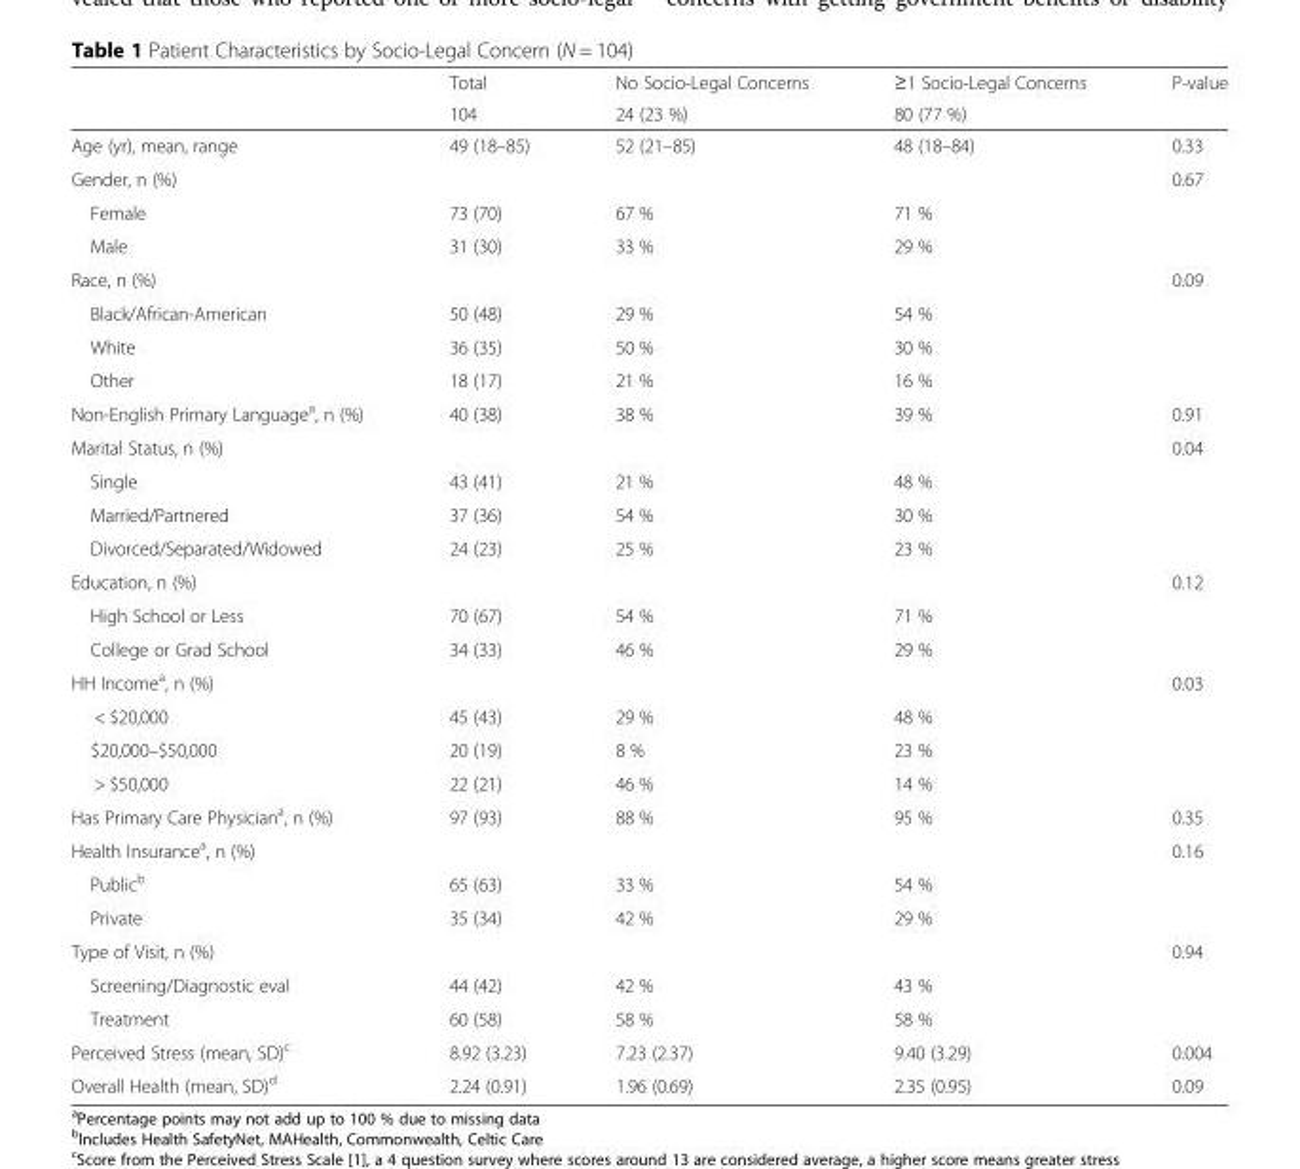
<table><thead><tr><td rowspan="2"></td><td rowspan="2">Total 104</td><td rowspan="2">No Socio-Legal Concerns 24 (23 %)</td><td rowspan="2">≥1 Socio-Legal Concerns 80 (77 %)</td><td rowspan="2">P-value</td></tr><tr></tr></thead><tbody><tr><td>Age (yr), mean, range</td><td>49 (18–85)</td><td>52 (21–85)</td><td>48 (18–84)</td><td>0.33</td></tr><tr><td>Gender, n (%)</td><td></td><td></td><td></td><td>0.67</td></tr><tr><td>Female</td><td>73 (70)</td><td>67 %</td><td>71 %</td><td></td></tr><tr><td>Male</td><td>31 (30)</td><td>33 %</td><td>29 %</td><td></td></tr><tr><td>Race, n (%)</td><td></td><td></td><td></td><td>0.09</td></tr><tr><td>Black/African-American</td><td>50 (48)</td><td>29 %</td><td>54 %</td><td></td></tr><tr><td>White</td><td>36 (35)</td><td>50 %</td><td>30 %</td><td></td></tr><tr><td>Other</td><td>18 (17)</td><td>21 %</td><td>16 %</td><td></td></tr><tr><td>Non-English Primary Language<sup>a</sup>, n (%)</td><td>40 (38)</td><td>38 %</td><td>39 %</td><td>0.91</td></tr><tr><td>Marital Status, n (%)</td><td></td><td></td><td></td><td>0.04</td></tr><tr><td>Single</td><td>43 (41)</td><td>21 %</td><td>48 %</td><td></td></tr><tr><td>Married/Partnered</td><td>37 (36)</td><td>54 %</td><td>30 %</td><td></td></tr><tr><td>Divorced/Separated/Widowed</td><td>24 (23)</td><td>25 %</td><td>23 %</td><td></td></tr><tr><td>Education, n (%)</td><td></td><td></td><td></td><td>0.12</td></tr><tr><td>High School or Less</td><td>70 (67)</td><td>54 %</td><td>71 %</td><td></td></tr><tr><td>College or Grad School</td><td>34 (33)</td><td>46 %</td><td>29 %</td><td></td></tr><tr><td>HH Income<sup>a</sup>, n (%)</td><td></td><td></td><td></td><td>0.03</td></tr><tr><td>&lt; $20,000</td><td>45 (43)</td><td>29 %</td><td>48 %</td><td></td></tr><tr><td>$20,000–$50,000</td><td>20 (19)</td><td>8 %</td><td>23 %</td><td></td></tr><tr><td>&gt; $50,000</td><td>22 (21)</td><td>46 %</td><td>14 %</td><td></td></tr><tr><td>Has Primary Care Physician<sup>a</sup>, n (%)</td><td>97 (93)</td><td>88 %</td><td>95 %</td><td>0.35</td></tr><tr><td>Health Insurance<sup>a</sup>, n (%)</td><td></td><td></td><td></td><td>0.16</td></tr><tr><td>Public<sup>b</sup></td><td>65 (63)</td><td>33 %</td><td>54 %</td><td></td></tr><tr><td>Private</td><td>35 (34)</td><td>42 %</td><td>29 %</td><td></td></tr><tr><td>Type of Visit, n (%)</td><td></td><td></td><td></td><td>0.94</td></tr><tr><td>Screening/Diagnostic eval</td><td>44 (42)</td><td>42 %</td><td>43 %</td><td></td></tr><tr><td>Treatment</td><td>60 (58)</td><td>58 %</td><td>58 %</td><td></td></tr><tr><td>Perceived Stress (mean, SD)<sup>c</sup></td><td>8.92 (3.23)</td><td>7.23 (2.37)</td><td>9.40 (3.29)</td><td>0.004</td></tr><tr><td>Overall Health (mean, SD)<sup>d</sup></td><td>2.24 (0.91)</td><td>1.96 (0.69)</td><td>2.35 (0.95)</td><td>0.09</td></tr></tbody></table>